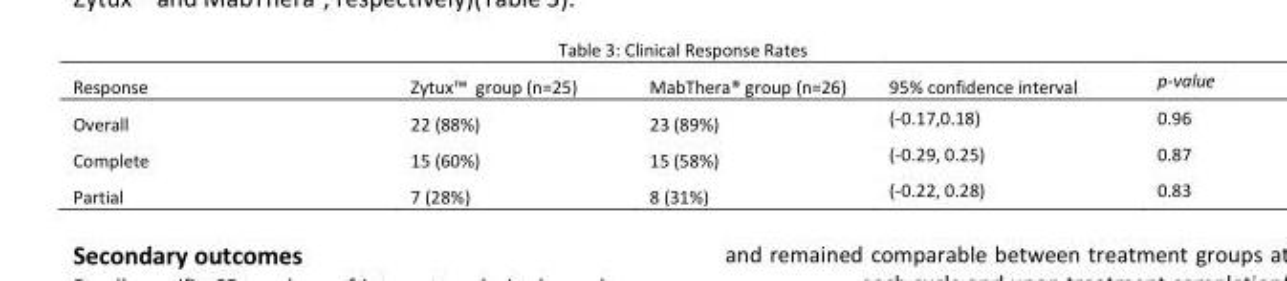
<table><thead><tr><td>Response</td><td>Zytux™ group (n=25)</td><td>MabThera® group (n=26)</td><td>95% confidence interval</td><td>p-value</td></tr></thead><tbody><tr><td>Overall</td><td>22 (88%)</td><td>23 (89%)</td><td>(-0.17,0.18)</td><td>0.96</td></tr><tr><td>Complete</td><td>15 (60%)</td><td>15 (58%)</td><td>(-0.29, 0.25)</td><td>0.87</td></tr><tr><td>Partial</td><td>7 (28%)</td><td>8 (31%)</td><td>(-0.22, 0.28)</td><td>0.83</td></tr></tbody></table>